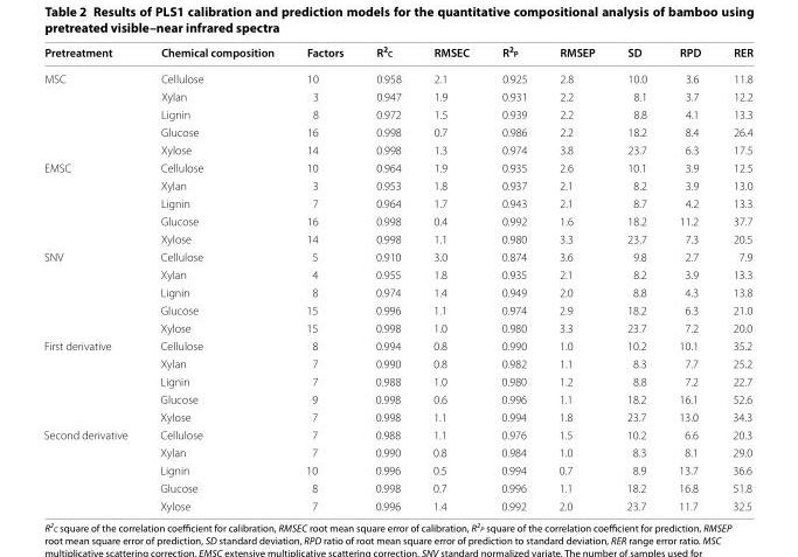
<table><thead><tr><td>Pretreatment</td><td>Chemical composition</td><td>Factors</td><td>R<sup>2</sup>c</td><td>RMSEC</td><td>R<sup>2</sup>p</td><td>RMSEP</td><td>SD</td><td>RPD</td><td>RER</td></tr></thead><tbody><tr><td rowspan="5">MSC</td><td>Cellulose</td><td>10</td><td>0.958</td><td>2.1</td><td>0.925</td><td>2.8</td><td>10.0</td><td>3.6</td><td>11.8</td></tr><tr><td>Xylan</td><td>3</td><td>0.947</td><td>1.9</td><td>0.931</td><td>2.2</td><td>8.1</td><td>3.7</td><td>12.2</td></tr><tr><td>Lignin</td><td>8</td><td>0.972</td><td>1.5</td><td>0.939</td><td>2.2</td><td>8.8</td><td>4.1</td><td>13.3</td></tr><tr><td>Glucose</td><td>16</td><td>0.998</td><td>0.7</td><td>0.986</td><td>2.2</td><td>18.2</td><td>8.4</td><td>26.4</td></tr><tr><td>Xylose</td><td>14</td><td>0.998</td><td>1.3</td><td>0.974</td><td>3.8</td><td>23.7</td><td>6.3</td><td>17.5</td></tr><tr><td rowspan="5">EMSC</td><td>Cellulose</td><td>10</td><td>0.964</td><td>1.9</td><td>0.935</td><td>2.6</td><td>10.1</td><td>3.9</td><td>12.5</td></tr><tr><td>Xylan</td><td>3</td><td>0.953</td><td>1.8</td><td>0.937</td><td>2.1</td><td>8.2</td><td>3.9</td><td>13.0</td></tr><tr><td>Lignin</td><td>7</td><td>0.964</td><td>1.7</td><td>0.943</td><td>2.1</td><td>8.7</td><td>4.2</td><td>13.3</td></tr><tr><td>Glucose</td><td>16</td><td>0.998</td><td>0.4</td><td>0.992</td><td>1.6</td><td>18.2</td><td>11.2</td><td>37.7</td></tr><tr><td>Xylose</td><td>14</td><td>0.998</td><td>1.1</td><td>0.980</td><td>3.3</td><td>23.7</td><td>7.3</td><td>20.5</td></tr><tr><td rowspan="5">SNV</td><td>Cellulose</td><td>5</td><td>0.910</td><td>3.0</td><td>0.874</td><td>3.6</td><td>9.8</td><td>2.7</td><td>7.9</td></tr><tr><td>Xylan</td><td>4</td><td>0.955</td><td>1.8</td><td>0.935</td><td>2.1</td><td>8.2</td><td>3.9</td><td>13.3</td></tr><tr><td>Lignin</td><td>8</td><td>0.974</td><td>1.4</td><td>0.949</td><td>2.0</td><td>8.8</td><td>4.3</td><td>13.8</td></tr><tr><td>Glucose</td><td>15</td><td>0.996</td><td>1.1</td><td>0.974</td><td>2.9</td><td>18.2</td><td>6.3</td><td>21.0</td></tr><tr><td>Xylose</td><td>15</td><td>0.998</td><td>1.0</td><td>0.980</td><td>3.3</td><td>23.7</td><td>7.2</td><td>20.0</td></tr><tr><td rowspan="5">First derivative</td><td>Cellulose</td><td>8</td><td>0.994</td><td>0.8</td><td>0.990</td><td>1.0</td><td>10.2</td><td>10.1</td><td>35.2</td></tr><tr><td>Xylan</td><td>7</td><td>0.990</td><td>0.8</td><td>0.982</td><td>1.1</td><td>8.3</td><td>7.7</td><td>25.2</td></tr><tr><td>Lignin</td><td>7</td><td>0.988</td><td>1.0</td><td>0.980</td><td>1.2</td><td>8.8</td><td>7.2</td><td>22.7</td></tr><tr><td>Glucose</td><td>9</td><td>0.998</td><td>0.6</td><td>0.996</td><td>1.1</td><td>18.2</td><td>16.1</td><td>52.6</td></tr><tr><td>Xylose</td><td>7</td><td>0.998</td><td>1.1</td><td>0.994</td><td>1.8</td><td>23.7</td><td>13.0</td><td>34.3</td></tr><tr><td rowspan="5">Second derivative</td><td>Cellulose</td><td>7</td><td>0.988</td><td>1.1</td><td>0.976</td><td>1.5</td><td>10.2</td><td>6.6</td><td>20.3</td></tr><tr><td>Xylan</td><td>7</td><td>0.990</td><td>0.8</td><td>0.984</td><td>1.0</td><td>8.3</td><td>8.1</td><td>29.0</td></tr><tr><td>Lignin</td><td>10</td><td>0.996</td><td>0.5</td><td>0.994</td><td>0.7</td><td>8.9</td><td>13.7</td><td>36.6</td></tr><tr><td>Glucose</td><td>8</td><td>0.998</td><td>0.7</td><td>0.996</td><td>1.1</td><td>18.2</td><td>16.8</td><td>51.8</td></tr><tr><td>Xylose</td><td>7</td><td>0.996</td><td>1.4</td><td>0.992</td><td>2.0</td><td>23.7</td><td>11.7</td><td>32.5</td></tr></tbody></table>